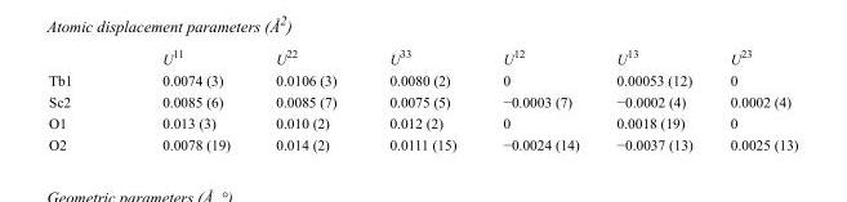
<table><thead><tr><td></td><td>U<sup>11</sup></td><td>U<sup>22</sup></td><td>U<sup>33</sup></td><td>U<sup>12</sup></td><td>U<sup>13</sup></td><td>U<sup>23</sup></td></tr></thead><tbody><tr><td>Tb1</td><td>0.0074 (3)</td><td>0.0106 (3)</td><td>0.0080 (2)</td><td>0</td><td>0.00053 (12)</td><td>0</td></tr><tr><td>Sc2</td><td>0.0085 (6)</td><td>0.0085 (7)</td><td>0.0075 (5)</td><td>−0.0003 (7)</td><td>−0.0002 (4)</td><td>0.0002 (4)</td></tr><tr><td>O1</td><td>0.013 (3)</td><td>0.010 (2)</td><td>0.012 (2)</td><td>0</td><td>0.0018 (19)</td><td>0</td></tr><tr><td>O2</td><td>0.0078 (19)</td><td>0.014 (2)</td><td>0.0111 (15)</td><td>−0.0024 (14)</td><td>−0.0037 (13)</td><td>0.0025 (13)</td></tr></tbody></table>